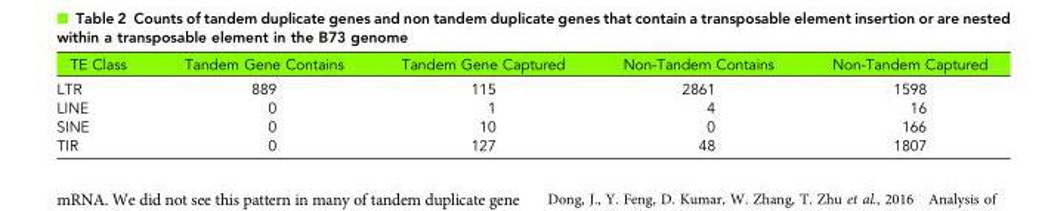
<table><thead><tr><td>TE Class</td><td>Tandem Gene Contains</td><td>Tandem Gene Captured</td><td>Non-Tandem Contains</td><td>Non-Tandem Captured</td></tr></thead><tbody><tr><td>LTR</td><td>889</td><td>115</td><td>2861</td><td>1598</td></tr><tr><td>LINE</td><td>0</td><td>1</td><td>4</td><td>16</td></tr><tr><td>SINE</td><td>0</td><td>10</td><td>0</td><td>166</td></tr><tr><td>TIR</td><td>0</td><td>127</td><td>48</td><td>1807</td></tr></tbody></table>